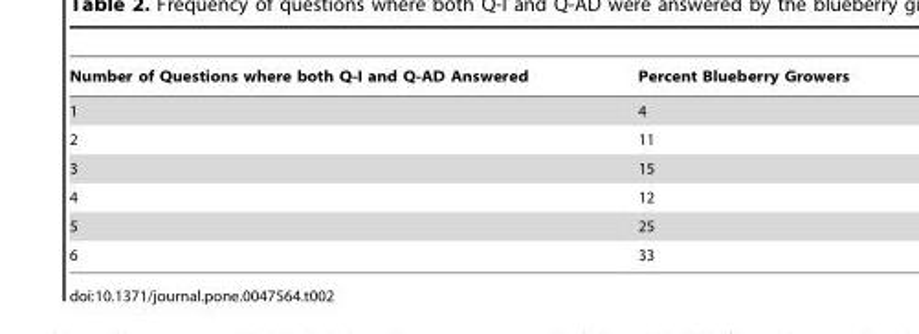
<table><thead><tr><td>Number of Questions where both Q-I and Q-AD Answered</td><td>Percent Blueberry Growers</td></tr></thead><tbody><tr><td>1</td><td>4</td></tr><tr><td>2</td><td>11</td></tr><tr><td>3</td><td>15</td></tr><tr><td>4</td><td>12</td></tr><tr><td>5</td><td>25</td></tr><tr><td>6</td><td>33</td></tr></tbody></table>